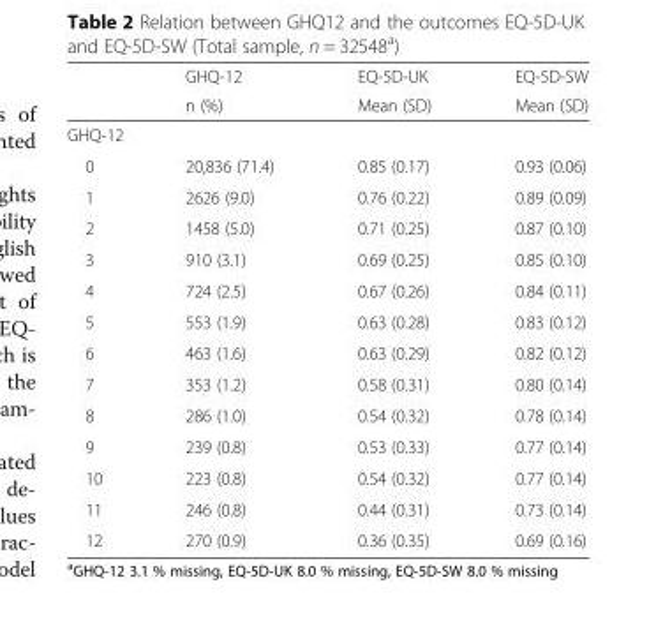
<table><thead><tr><td rowspan="2"></td><td rowspan="2">GHQ-12 n (%)</td><td rowspan="2">EQ-5D-UK Mean (SD)</td><td rowspan="2">EQ-5D-SW Mean (SD)</td></tr><tr></tr></thead><tbody><tr><td colspan="4">GHQ-12</td></tr><tr><td>0</td><td>20,836 (71.4)</td><td>0.85 (0.17)</td><td>0.93 (0.06)</td></tr><tr><td>1</td><td>2626 (9.0)</td><td>0.76 (0.22)</td><td>0.89 (0.09)</td></tr><tr><td>2</td><td>1458 (5.0)</td><td>0.71 (0.25)</td><td>0.87 (0.10)</td></tr><tr><td>3</td><td>910 (3.1)</td><td>0.69 (0.25)</td><td>0.85 (0.10)</td></tr><tr><td>4</td><td>724 (2.5)</td><td>0.67 (0.26)</td><td>0.84 (0.11)</td></tr><tr><td>5</td><td>553 (1.9)</td><td>0.63 (0.28)</td><td>0.83 (0.12)</td></tr><tr><td>6</td><td>463 (1.6)</td><td>0.63 (0.29)</td><td>0.82 (0.12)</td></tr><tr><td>7</td><td>353 (1.2)</td><td>0.58 (0.31)</td><td>0.80 (0.14)</td></tr><tr><td>8</td><td>286 (1.0)</td><td>0.54 (0.32)</td><td>0.78 (0.14)</td></tr><tr><td>9</td><td>239 (0.8)</td><td>0.53 (0.33)</td><td>0.77 (0.14)</td></tr><tr><td>10</td><td>223 (0.8)</td><td>0.54 (0.32)</td><td>0.77 (0.14)</td></tr><tr><td>11</td><td>246 (0.8)</td><td>0.44 (0.31)</td><td>0.73 (0.14)</td></tr><tr><td>12</td><td>270 (0.9)</td><td>0.36 (0.35)</td><td>0.69 (0.16)</td></tr></tbody></table>